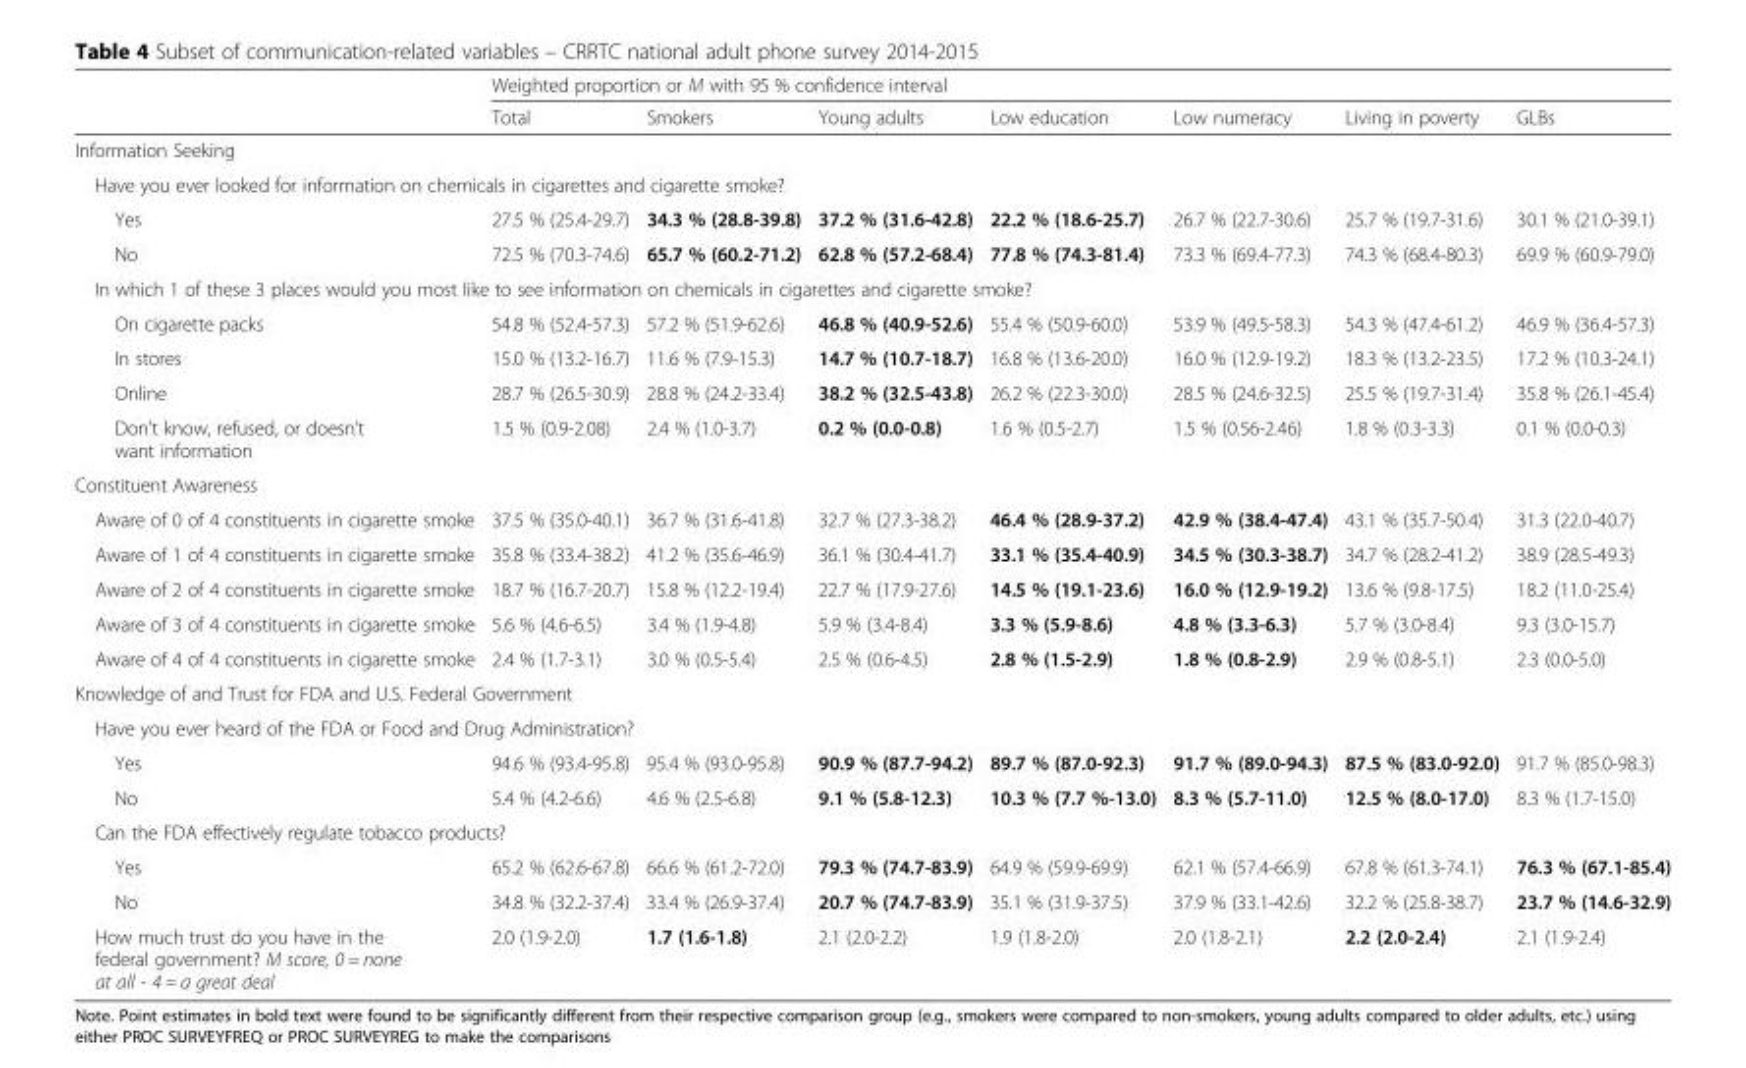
<table><thead><tr><td rowspan="2"></td><td colspan="7">Weighted proportion or M with 95 % confidence interval</td></tr><tr><td>Total</td><td>Smokers</td><td>Young adults</td><td>Low education</td><td>Low numeracy</td><td>Living in poverty</td><td>GLBs</td></tr></thead><tbody><tr><td colspan="8">Information Seeking</td></tr><tr><td colspan="8">Have you ever looked for information on chemicals in cigarettes and cigarette smoke?</td></tr><tr><td>Yes</td><td>27.5 % (25.4-29.7)</td><td>34.3 % (28.8-39.8)</td><td>37.2 % (31.6-42.8)</td><td>22.2 % (18.6-25.7)</td><td>26.7 % (22.7-30.6)</td><td>25.7 % (19.7-31.6)</td><td>30.1 % (21.0-39.1)</td></tr><tr><td>No</td><td>72.5 % (70.3-74.6)</td><td>65.7 % (60.2-71.2)</td><td>62.8 % (57.2-68.4)</td><td>77.8 % (74.3-81.4)</td><td>73.3 % (69.4-77.3)</td><td>74.3 % (68.4-80.3)</td><td>69.9 % (60.9-79.0)</td></tr><tr><td colspan="8">In which 1 of these 3 places would you most like to see information on chemicals in cigarettes and cigarette smoke?</td></tr><tr><td>On cigarette packs</td><td>54.8 % (52.4-57.3)</td><td>57.2 % (51.9-62.6)</td><td>46.8 % (40.9-52.6)</td><td>55.4 % (50.9-60.0)</td><td>53.9 % (49.5-58.3)</td><td>54.3 % (47.4-61.2)</td><td>46.9 % (36.4-57.3)</td></tr><tr><td>In stores</td><td>15.0 % (13.2-16.7)</td><td>11.6 % (7.9-15.3)</td><td>14.7 % (10.7-18.7)</td><td>16.8 % (13.6-20.0)</td><td>16.0 % (12.9-19.2)</td><td>18.3 % (13.2-23.5)</td><td>17.2 % (10.3-24.1)</td></tr><tr><td>Online</td><td>28.7 % (26.5-30.9)</td><td>28.8 % (24.2-33.4)</td><td>38.2 % (32.5-43.8)</td><td>26.2 % (22.3-30.0)</td><td>28.5 % (24.6-32.5)</td><td>25.5 % (19.7-31.4)</td><td>35.8 % (26.1-45.4)</td></tr><tr><td>Don&#x27;t know, refused, or doesn’t want information</td><td>1.5 % (0.9-2.08)</td><td>2.4 % (1.0-3.7)</td><td>0.2 % (0.0-0.8)</td><td>1.6 % (0.5-2.7)</td><td>1.5 % (0.56-2.46)</td><td>1.8 % (0.3-3.3)</td><td>0.1 % (0.0-0.3)</td></tr><tr><td colspan="8">Constituent Awareness</td></tr><tr><td>Aware of 0 of 4 constituents in cigarette smoke</td><td>37.5 % (35.0-40.1)</td><td>36.7 % (31.6-41.8)</td><td>32.7 % (27.3-38.2)</td><td>46.4 % (28.9-37.2)</td><td>42.9 % (38.4-47.4)</td><td>43.1 % (35.7-50.4)</td><td>31.3 (22.0-40.7)</td></tr><tr><td>Aware of 1 of 4 constituents in cigarette smoke</td><td>35.8 % (33.4-38.2)</td><td>41.2 % (35.6-46.9)</td><td>36.1 % (30.4-41.7)</td><td>33.1 % (35.4-40.9)</td><td>34.5 % (30.3-38.7)</td><td>34.7 % (28.2-41.2)</td><td>38.9 (28.5-49.3)</td></tr><tr><td>Aware of 2 of 4 constituents in cigarette smoke</td><td>18.7 % (16.7-20.7)</td><td>15.8 % (12.2-19.4)</td><td>22.7 % (17.9-27.6)</td><td>14.5 % (19.1-23.6)</td><td>16.0 % (12.9-19.2)</td><td>13.6 % (9.8-17.5)</td><td>18.2 (11.0-25.4)</td></tr><tr><td>Aware of 3 of 4 constituents in cigarette smoke</td><td>5.6 % (4.6-6.5)</td><td>3.4 % (1.9-4.8)</td><td>5.9 % (3.4-8.4)</td><td>3.3 % (5.9-8.6)</td><td>4.8 % (3.3-6.3)</td><td>5.7 % (3.0-8.4)</td><td>9.3 (3.0-15.7)</td></tr><tr><td>Aware of 4 of 4 constituents in cigarette smoke</td><td>2.4 % (1.7-3.1)</td><td>3.0 % (0.5-5.4)</td><td>2.5 % (0.6-4.5)</td><td>2.8 % (1.5-2.9)</td><td>1.8 % (0.8-2.9)</td><td>2.9 % (0.8-5.1)</td><td>2.3 (0.0-5.0)</td></tr><tr><td colspan="8">Knowledge of and Trust for FDA and U.S. Federal Government</td></tr><tr><td colspan="8">Have you ever heard of the FDA or Food and Drug Administration?</td></tr><tr><td>Yes</td><td>94.6 % (93.4-95.8)</td><td>95.4 % (93.0-95.8)</td><td>90.9 % (87.7-94.2)</td><td>89.7 % (87.0-92.3)</td><td>91.7 % (89.0-94.3)</td><td>87.5 % (83.0-92.0)</td><td>91.7 % (85.0-98.3)</td></tr><tr><td>No</td><td>5.4 % (4.2-6.6)</td><td>4.6 % (2.5-6.8)</td><td>9.1 % (5.8-12.3)</td><td>10.3 % (7.7 %-13.0)</td><td>8.3 % (5.7-11.0)</td><td>12.5 % (8.0-17.0)</td><td>8.3 % (1.7-15.0)</td></tr><tr><td colspan="8">Can the FDA effectively regulate tobacco products?</td></tr><tr><td>Yes</td><td>65.2 % (62.6-67.8)</td><td>66.6 % (61.2-72.0)</td><td>79.3 % (74.7-83.9)</td><td>64.9 % (59.9-69.9)</td><td>62.1 % (57.4-66.9)</td><td>67.8 % (61.3-74.1)</td><td>76.3 % (67.1-85.4)</td></tr><tr><td>No</td><td>34.8 % (32.2-37.4)</td><td>33.4 % (26.9-37.4)</td><td>20.7 % (74.7-83.9)</td><td>35.1 % (31.9-37.5)</td><td>37.9 % (33.1-42.6)</td><td>32.2 % (25.8-38.7)</td><td>23.7 % (14.6-32.9)</td></tr><tr><td>How much trust do you have in the federal government? M score, 0 = none at all - 4 = a great deal</td><td>2.0 (1.9-2.0)</td><td>1.7 (1.6-1.8)</td><td>2.1 (2.0-2.2)</td><td>1.9 (1.8-2.0)</td><td>2.0 (1.8-2.1)</td><td>2.2 (2.0-2.4)</td><td>2.1 (1.9-2.4)</td></tr></tbody></table>